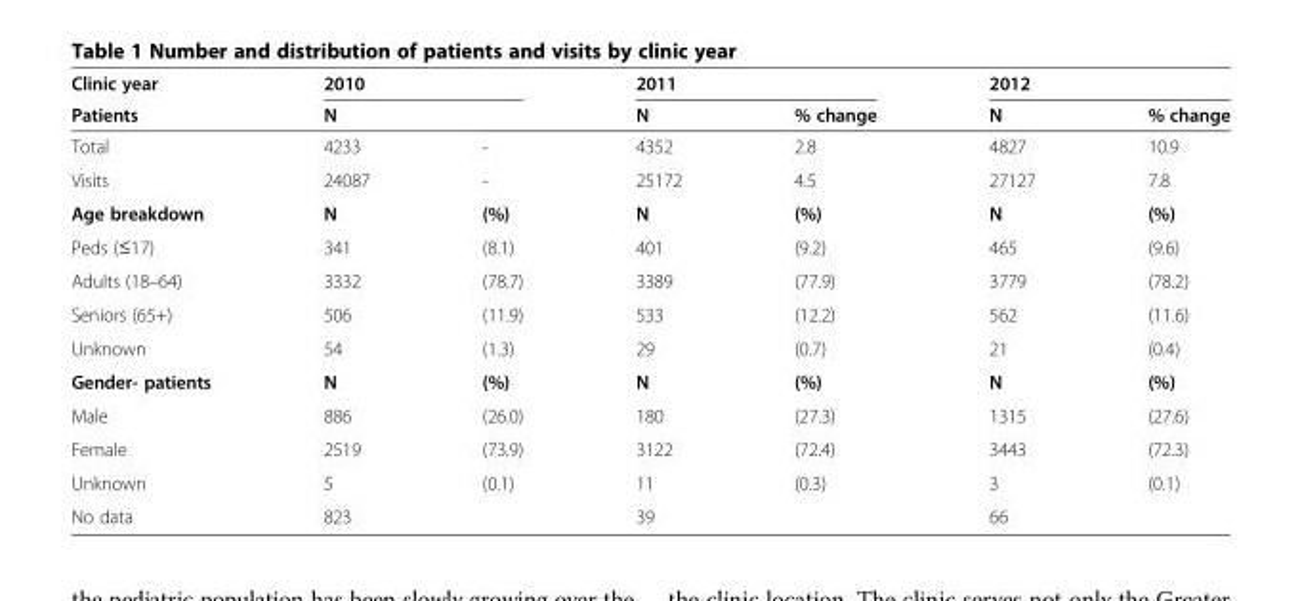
<table><thead><tr><td rowspan="2">Clinic year Patients</td><td colspan="2">2010</td><td colspan="2">2011</td><td colspan="2">2012</td></tr><tr><td>N</td><td></td><td>N</td><td>% change</td><td>N</td><td>% change</td></tr></thead><tbody><tr><td>Total</td><td>4233</td><td>-</td><td>4352</td><td>2.8</td><td>4827</td><td>10.9</td></tr><tr><td>Visits</td><td>24087</td><td>-</td><td>25172</td><td>4.5</td><td>27127</td><td>7.8</td></tr><tr><td>Age breakdown</td><td>N</td><td>(%)</td><td>N</td><td>(%)</td><td>N</td><td>(%)</td></tr><tr><td>Peds (≤17)</td><td>341</td><td>(8.1)</td><td>401</td><td>(9.2)</td><td>465</td><td>(9.6)</td></tr><tr><td>Adults (18–64)</td><td>3332</td><td>(78.7)</td><td>3389</td><td>(77.9)</td><td>3779</td><td>(78.2)</td></tr><tr><td>Seniors (65+)</td><td>506</td><td>(11.9)</td><td>533</td><td>(12.2)</td><td>562</td><td>(11.6)</td></tr><tr><td>Unknown</td><td>54</td><td>(1.3)</td><td>29</td><td>(0.7)</td><td>21</td><td>(0.4)</td></tr><tr><td>Gender- patients</td><td>N</td><td>(%)</td><td>N</td><td>(%)</td><td>N</td><td>(%)</td></tr><tr><td>Male</td><td>886</td><td>(26.0)</td><td>180</td><td>(27.3)</td><td>1315</td><td>(27.6)</td></tr><tr><td>Female</td><td>2519</td><td>(73.9)</td><td>3122</td><td>(72.4)</td><td>3443</td><td>(72.3)</td></tr><tr><td>Unknown</td><td>5</td><td>(0.1)</td><td>11</td><td>(0.3)</td><td>3</td><td>(0.1)</td></tr><tr><td>No data</td><td>823</td><td></td><td>39</td><td></td><td>66</td><td></td></tr></tbody></table>